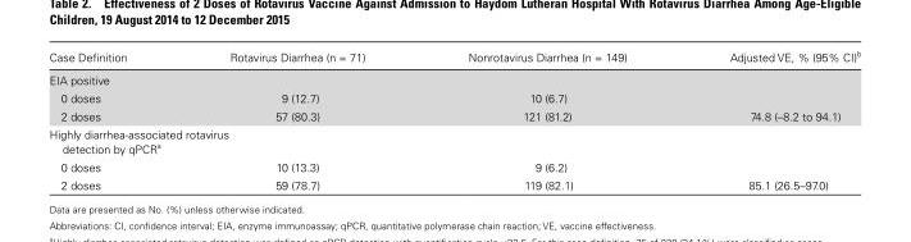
<table><thead><tr><td>Case Definition</td><td>Rotavirus Diarrhea (n = 71)</td><td>Nonrotavirus Diarrhea (n = 149)</td><td>Adjusted VE, % (95% CI)<sup>b</sup></td></tr></thead><tbody><tr><td colspan="4">EIA positive</td></tr><tr><td>0 doses</td><td>9 (12.7)</td><td>10 (6.7)</td><td></td></tr><tr><td>2 doses</td><td>57 (80.3)</td><td>121 (81.2)</td><td>74.8 (–8.2 to 94.1)</td></tr><tr><td colspan="4">Highly diarrhea-associated rotavirus detection by qPCR<sup>a</sup></td></tr><tr><td>0 doses</td><td>10 (13.3)</td><td>9 (6.2)</td><td></td></tr><tr><td>2 doses</td><td>59 (78.7)</td><td>119 (82.1)</td><td>85.1 (26.5–97.0)</td></tr></tbody></table>